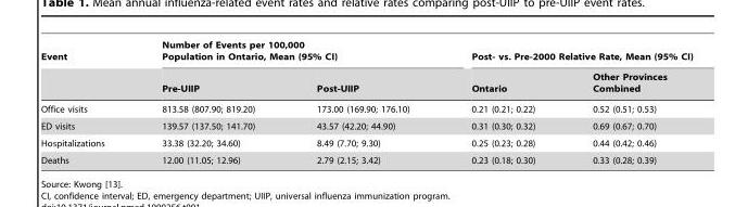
<table><thead><tr><td rowspan="2">Event</td><td colspan="2">Number of Events per 100,000 Population in Ontario, Mean (95% CI)</td><td colspan="2">Post- vs. Pre-2000 Relative Rate, Mean (95% CI)</td></tr><tr><td>Pre-UIIP</td><td>Post-UIIP</td><td>Ontario</td><td>Other Provinces Combined</td></tr></thead><tbody><tr><td>Office visits</td><td>813.58 (807.90; 819.20)</td><td>173.00 (169.90; 176.10)</td><td>0.21 (0.21; 0.22)</td><td>0.52 (0.51; 0.53)</td></tr><tr><td>ED visits</td><td>139.57 (137.50; 141.70)</td><td>43.57 (42.20; 44.90)</td><td>0.31 (0.30; 0.32)</td><td>0.69 (0.67; 0.70)</td></tr><tr><td>Hospitalizations</td><td>33.38 (32.20; 34.60)</td><td>8.49 (7.70; 9.30)</td><td>0.25 (0.23; 0.28)</td><td>0.44 (0.42; 0.46)</td></tr><tr><td>Deaths</td><td>12.00 (11.05; 12.96)</td><td>2.79 (2.15; 3.42)</td><td>0.23 (0.18; 0.30)</td><td>0.33 (0.28; 0.39)</td></tr></tbody></table>